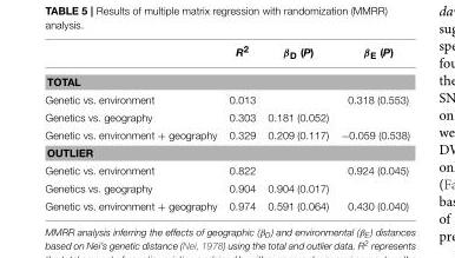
<table><thead><tr><td></td><td>R<sup>2</sup></td><td>β<sub>D</sub> (P)</td><td>β<sub>E</sub> (P)</td></tr></thead><tbody><tr><td colspan="4">TOTAL</td></tr><tr><td>Genetic vs. environment</td><td>0.013</td><td></td><td>0.318 (0.553)</td></tr><tr><td>Genetics vs. geography</td><td>0.303</td><td>0.181 (0.052)</td><td></td></tr><tr><td>Genetic vs. environment + geography</td><td>0.329</td><td>0.209 (0.117)</td><td>−0.059 (0.538)</td></tr><tr><td colspan="4">OUTLIER</td></tr><tr><td>Genetic vs. environment</td><td>0.822</td><td></td><td>0.924 (0.045)</td></tr><tr><td>Genetics vs. geography</td><td>0.904</td><td>0.904 (0.017)</td><td></td></tr><tr><td>Genetic vs. environment + geography</td><td>0.974</td><td>0.591 (0.064)</td><td>0.430 (0.040)</td></tr></tbody></table>